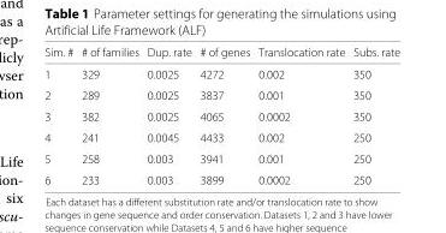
<table><thead><tr><td>Sim. #</td><td># of families</td><td>Dup. rate</td><td># of genes</td><td>Translocation rate</td><td>Subs. rate</td></tr></thead><tbody><tr><td>1</td><td>329</td><td>0.0025</td><td>4272</td><td>0.002</td><td>350</td></tr><tr><td>2</td><td>289</td><td>0.0025</td><td>3837</td><td>0.001</td><td>350</td></tr><tr><td>3</td><td>382</td><td>0.0025</td><td>4065</td><td>0.0002</td><td>350</td></tr><tr><td>4</td><td>241</td><td>0.0045</td><td>4433</td><td>0.002</td><td>250</td></tr><tr><td>5</td><td>258</td><td>0.003</td><td>3941</td><td>0.001</td><td>250</td></tr><tr><td>6</td><td>233</td><td>0.003</td><td>3899</td><td>0.0002</td><td>250</td></tr></tbody></table>